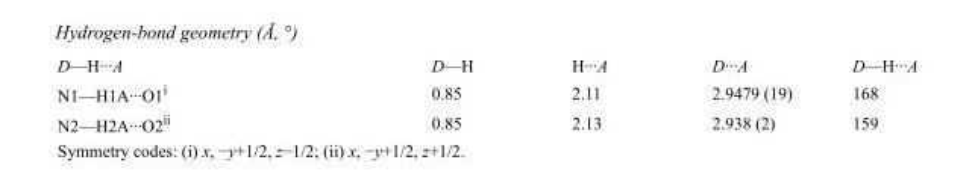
<table><tbody><tr><td>D—H···A</td><td>D—H</td><td>H···A</td><td>D···A</td><td>D—H···A</td></tr><tr><td>N1—H1A···O1<sup>i</sup></td><td>0.85</td><td>2.11</td><td>2.9479 (19)</td><td>168</td></tr><tr><td>N2—H2A···O2<sup>ii</sup></td><td>0.85</td><td>2.13</td><td>2.938 (2)</td><td>159</td></tr></tbody></table>